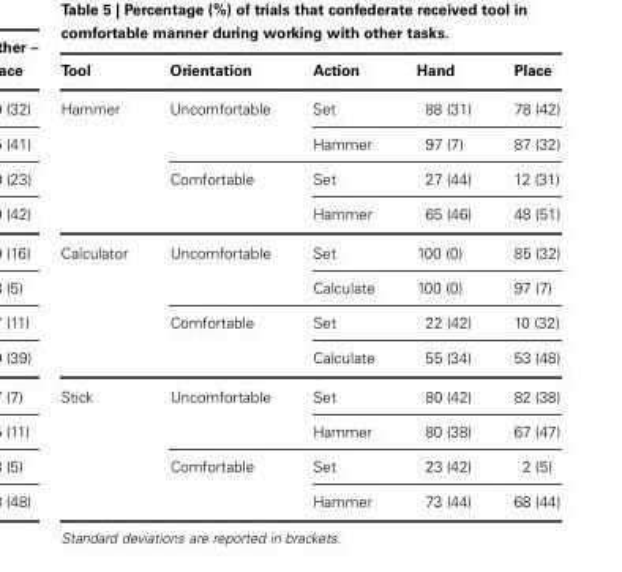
<table><thead><tr><td>Tool</td><td>Orientation</td><td>Action</td><td>Hand</td><td>Place</td></tr></thead><tbody><tr><td rowspan="4">Hammer</td><td>Uncomfortable</td><td>Set</td><td>88 (31)</td><td>78 (42)</td></tr><tr><td></td><td>Hammer</td><td>97 (7)</td><td>87 (32)</td></tr><tr><td>Comfortable</td><td>Set</td><td>27 (44)</td><td>12 (31)</td></tr><tr><td></td><td>Hammer</td><td>65 (46)</td><td>48 (51)</td></tr><tr><td rowspan="4">Calculator</td><td>Uncomfortable</td><td>Set</td><td>100 (0)</td><td>85 (32)</td></tr><tr><td></td><td>Calculate</td><td>100 (0)</td><td>97 (7)</td></tr><tr><td>Comfortable</td><td>Set</td><td>22 (42)</td><td>10 (32)</td></tr><tr><td></td><td>Calculate</td><td>55 (34)</td><td>53 (48)</td></tr><tr><td rowspan="4">Stick</td><td>Uncomfortable</td><td>Set</td><td>80 (42)</td><td>82 (38)</td></tr><tr><td></td><td>Hammer</td><td>80 (38)</td><td>67 (47)</td></tr><tr><td>Comfortable</td><td>Set</td><td>23 (42)</td><td>2 (5)</td></tr><tr><td></td><td>Hammer</td><td>73 (44)</td><td>68 (44)</td></tr></tbody></table>